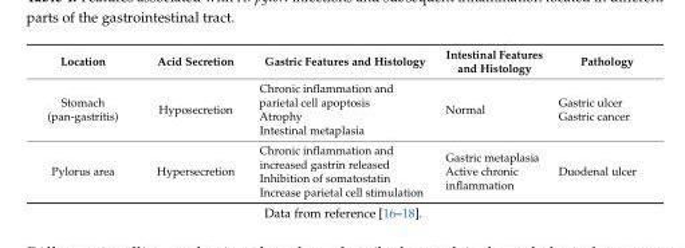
<table><thead><tr><td>Location</td><td>Acid Secretion</td><td>Gastric Features and Histology</td><td>Intestinal Features and Histology</td><td>Pathology</td></tr></thead><tbody><tr><td>Stomach (pan-gastritis)</td><td>Hyposecretion</td><td>Chronic inflammation and parietal cell apoptosis Atrophy Intestinal metaplasia</td><td>Normal</td><td>Gastric ulcer Gastric cancer</td></tr><tr><td>Pylorus area</td><td>Hypersecretion</td><td>Chronic inflammation and increased gastrin released Inhibition of somatostatin Increase parietal cell stimulation</td><td>Gastric metaplasia Active chronic inflammation</td><td>Duodenal ulcer</td></tr></tbody></table>